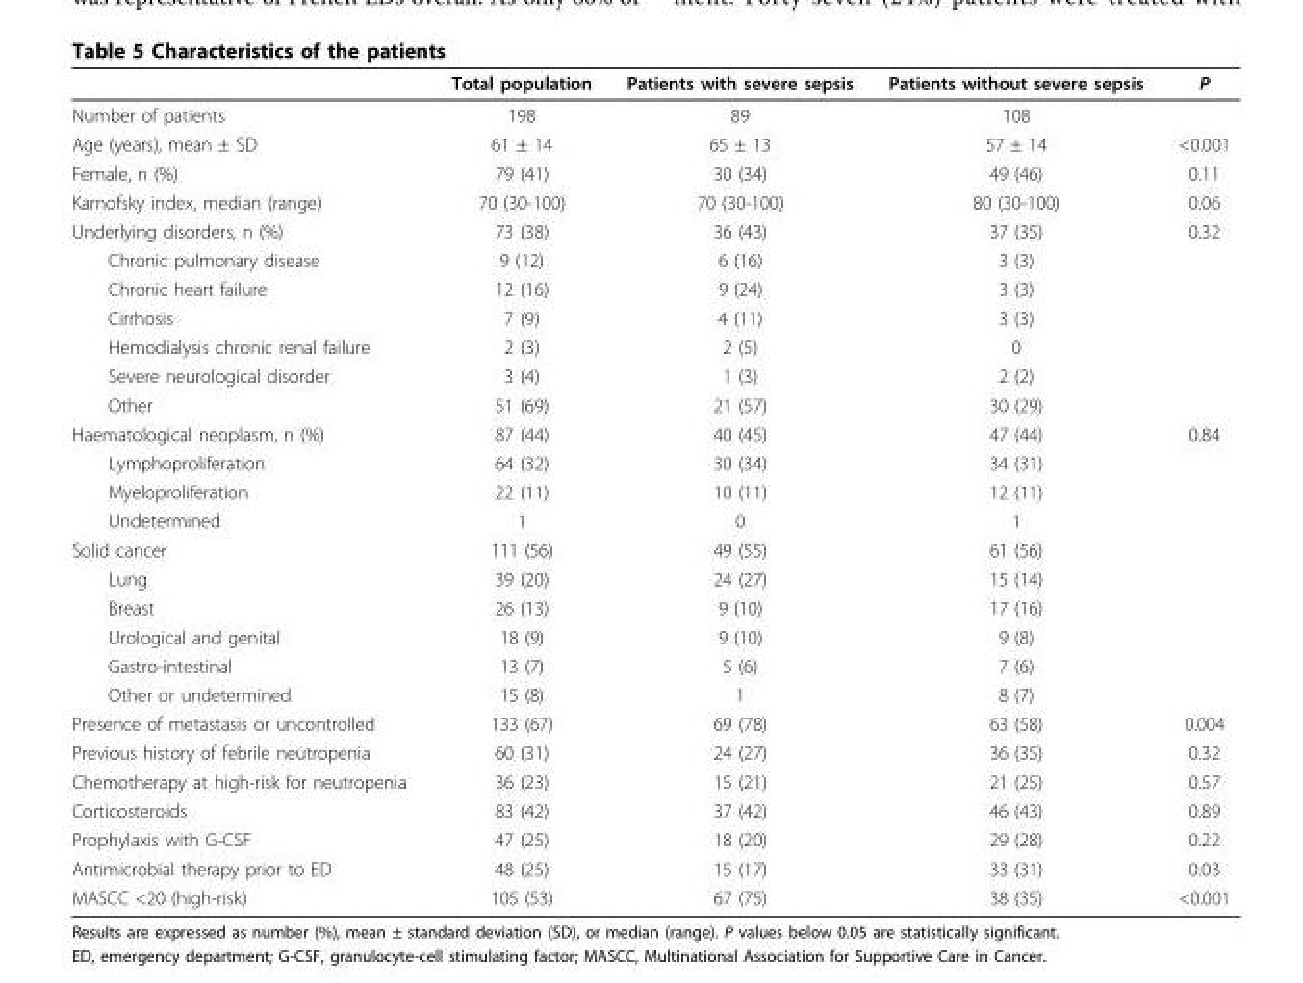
<table><thead><tr><td></td><td>Total population</td><td>Patients with severe sepsis</td><td>Patients without severe sepsis</td><td>P</td></tr></thead><tbody><tr><td>Number of patients</td><td>198</td><td>89</td><td>108</td><td></td></tr><tr><td>Age (years), mean ± SD</td><td>61 ± 14</td><td>65 ± 13</td><td>57 ± 14</td><td>&lt;0.001</td></tr><tr><td>Female, n (%)</td><td>79 (41)</td><td>30 (34)</td><td>49 (46)</td><td>0.11</td></tr><tr><td>Karnofsky index, median (range)</td><td>70 (30-100)</td><td>70 (30-100)</td><td>80 (30-100)</td><td>0.06</td></tr><tr><td>Underlying disorders, n (%)</td><td>73 (38)</td><td>36 (43)</td><td>37 (35)</td><td>0.32</td></tr><tr><td>Chronic pulmonary disease</td><td>9 (12)</td><td>6 (16)</td><td>3 (3)</td><td></td></tr><tr><td>Chronic heart failure</td><td>12 (16)</td><td>9 (24)</td><td>3 (3)</td><td></td></tr><tr><td>Cirrhosis</td><td>7 (9)</td><td>4 (11)</td><td>3 (3)</td><td></td></tr><tr><td>Hemodialysis chronic renal failure</td><td>2 (3)</td><td>2 (5)</td><td>0</td><td></td></tr><tr><td>Severe neurological disorder</td><td>3 (4)</td><td>1 (3)</td><td>2 (2)</td><td></td></tr><tr><td>Other</td><td>51 (69)</td><td>21 (57)</td><td>30 (29)</td><td></td></tr><tr><td>Haematological neoplasm, n (%)</td><td>87 (44)</td><td>40 (45)</td><td>47 (44)</td><td>0.84</td></tr><tr><td>Lymphoproliferation</td><td>64 (32)</td><td>30 (34)</td><td>34 (31)</td><td></td></tr><tr><td>Myeloproliferation</td><td>22 (11)</td><td>10 (11)</td><td>12 (11)</td><td></td></tr><tr><td>Undetermined</td><td>1</td><td>0</td><td>1</td><td></td></tr><tr><td>Solid cancer</td><td>111 (56)</td><td>49 (55)</td><td>61 (56)</td><td></td></tr><tr><td>Lung</td><td>39 (20)</td><td>24 (27)</td><td>15 (14)</td><td></td></tr><tr><td>Breast</td><td>26 (13)</td><td>9 (10)</td><td>17 (16)</td><td></td></tr><tr><td>Urological and genital</td><td>18 (9)</td><td>9 (10)</td><td>9 (8)</td><td></td></tr><tr><td>Gastro-intestinal</td><td>13 (7)</td><td>5 (6)</td><td>7 (6)</td><td></td></tr><tr><td>Other or undetermined</td><td>15 (8)</td><td>1</td><td>8 (7)</td><td></td></tr><tr><td>Presence of metastasis or uncontrolled</td><td>133 (67)</td><td>69 (78)</td><td>63 (58)</td><td>0.004</td></tr><tr><td>Previous history of febrile neutropenia</td><td>60 (31)</td><td>24 (27)</td><td>36 (35)</td><td>0.32</td></tr><tr><td>Chemotherapy at high-risk for neutropenia</td><td>36 (23)</td><td>15 (21)</td><td>21 (25)</td><td>0.57</td></tr><tr><td>Corticosteroids</td><td>83 (42)</td><td>37 (42)</td><td>46 (43)</td><td>0.89</td></tr><tr><td>Prophylaxis with G-CSF</td><td>47 (25)</td><td>18 (20)</td><td>29 (28)</td><td>0.22</td></tr><tr><td>Antimicrobial therapy prior to ED</td><td>48 (25)</td><td>15 (17)</td><td>33 (31)</td><td>0.03</td></tr><tr><td>MASCC &lt;20 (high-risk)</td><td>105 (53)</td><td>67 (75)</td><td>38 (35)</td><td>&lt;0.001</td></tr></tbody></table>